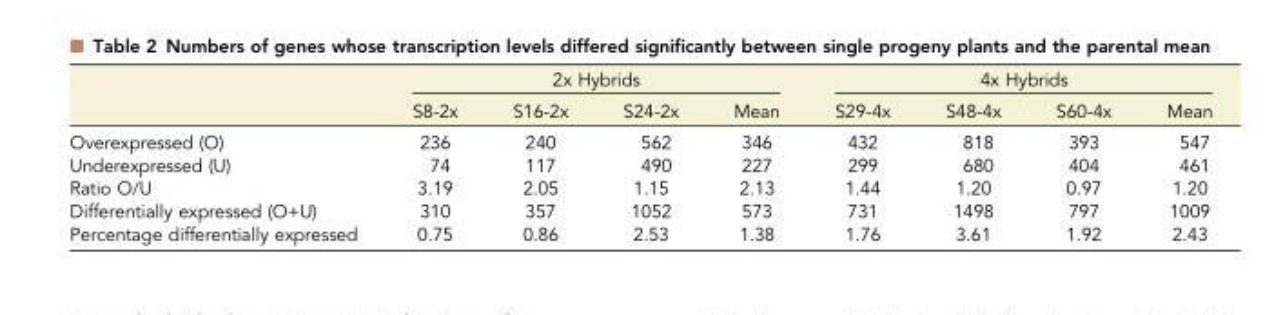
<table><thead><tr><td rowspan="2"></td><td colspan="4">2x Hybrids</td><td colspan="4">4x Hybrids</td></tr><tr><td>S8-2x</td><td>S16-2x</td><td>S24-2x</td><td>Mean</td><td>S29-4x</td><td>S48-4x</td><td>S60-4x</td><td>Mean</td></tr></thead><tbody><tr><td>Overexpressed (O)</td><td>236</td><td>240</td><td>562</td><td>346</td><td>432</td><td>818</td><td>393</td><td>547</td></tr><tr><td>Underexpressed (U)</td><td>74</td><td>117</td><td>490</td><td>227</td><td>299</td><td>680</td><td>404</td><td>461</td></tr><tr><td>Ratio O/U</td><td>3.19</td><td>2.05</td><td>1.15</td><td>2.13</td><td>1.44</td><td>1.20</td><td>0.97</td><td>1.20</td></tr><tr><td>Differentially expressed (O+U)</td><td>310</td><td>357</td><td>1052</td><td>573</td><td>731</td><td>1498</td><td>797</td><td>1009</td></tr><tr><td>Percentage differentially expressed</td><td>0.75</td><td>0.86</td><td>2.53</td><td>1.38</td><td>1.76</td><td>3.61</td><td>1.92</td><td>2.43</td></tr></tbody></table>